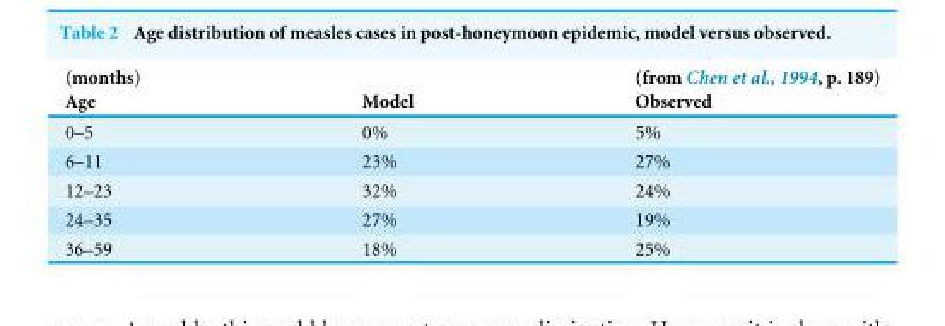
<table><thead><tr><td rowspan="2">(months) Age</td><td rowspan="2">Model</td><td rowspan="2">(from Chen et al., 1994, p. 189) Observed</td></tr><tr></tr></thead><tbody><tr><td>0–5</td><td>0%</td><td>5%</td></tr><tr><td>6–11</td><td>23%</td><td>27%</td></tr><tr><td>12–23</td><td>32%</td><td>24%</td></tr><tr><td>24–35</td><td>27%</td><td>19%</td></tr><tr><td>36–59</td><td>18%</td><td>25%</td></tr></tbody></table>